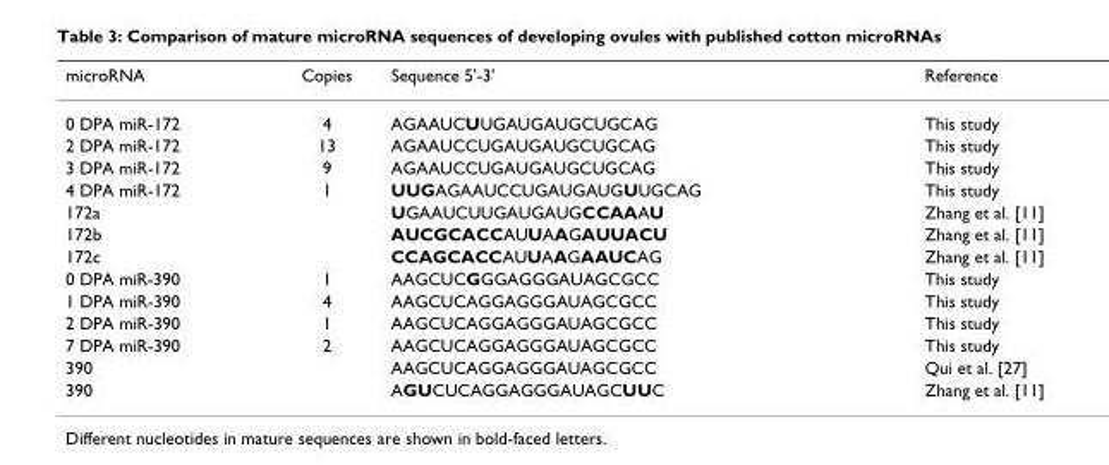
<table><thead><tr><td>microRNA</td><td>Copies</td><td>Sequence 5&#x27;-3&#x27;</td><td>Reference</td></tr></thead><tbody><tr><td>0 DPA miR-172</td><td>4</td><td>AGAAUCUUGAUGAUGCUGCAG</td><td>This study</td></tr><tr><td>2 DPA miR-172</td><td>13</td><td>AGAAUCCUGAUGAUGCUGCAG</td><td>This study</td></tr><tr><td>3 DPA miR-172</td><td>9</td><td>AGAAUCCUGAUGAUGCUGCAG</td><td>This study</td></tr><tr><td>4 DPA miR-172</td><td>1</td><td>UUGAGAAUCCUGAUGAUGUUGCAG</td><td>This study</td></tr><tr><td>172a</td><td></td><td>UGAAUCUUGAUGAUGCCAAAU</td><td>Zhang et al. [11]</td></tr><tr><td>172b</td><td></td><td>AUCGCACCAUUAAGAUUACU</td><td>Zhang et al. [11]</td></tr><tr><td>172c</td><td></td><td>CCAGCACCAUUAAGAAUCAG</td><td>Zhang et al. [11]</td></tr><tr><td>0 DPA miR-390</td><td>1</td><td>AAGCUCGGGAGGGAUAGCGCC</td><td>This study</td></tr><tr><td>1 DPA miR-390</td><td>4</td><td>AAGCUCAGGAGGGAUAGCGCC</td><td>This study</td></tr><tr><td>2 DPA miR-390</td><td>1</td><td>AAGCUCAGGAGGGAUAGCGCC</td><td>This study</td></tr><tr><td>7 DPA miR-390</td><td>2</td><td>AAGCUCAGGAGGGAUAGCGCC</td><td>This study</td></tr><tr><td>390</td><td></td><td>AAGCUCAGGAGGGAUAGCGCC</td><td>Qui et al. [27]</td></tr><tr><td>390</td><td></td><td>AGUCUCAGGAGGGAUAGCUUC</td><td>Zhang et al. [11]</td></tr></tbody></table>